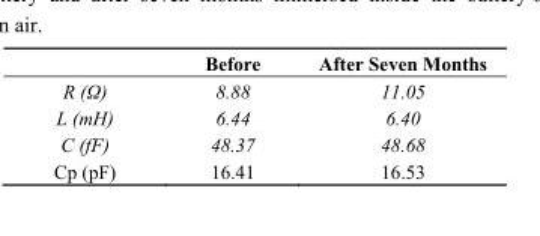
<table><thead><tr><td></td><td>Before</td><td>After Seven Months</td></tr></thead><tbody><tr><td>R (Ω)</td><td>8.88</td><td>11.05</td></tr><tr><td>L (mH)</td><td>6.44</td><td>6.40</td></tr><tr><td>C (fF)</td><td>48.37</td><td>48.68</td></tr><tr><td>Cp (pF)</td><td>16.41</td><td>16.53</td></tr></tbody></table>